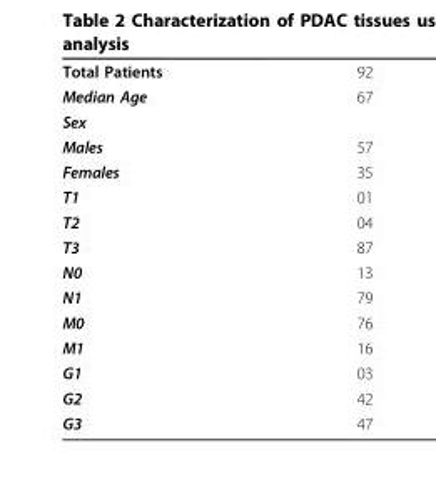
<table><tbody><tr><td>Total Patients</td><td>92</td></tr><tr><td>Median Age</td><td>67</td></tr><tr><td colspan="2">Sex</td></tr><tr><td>Males</td><td>57</td></tr><tr><td>Females</td><td>35</td></tr><tr><td>T1</td><td>01</td></tr><tr><td>T2</td><td>04</td></tr><tr><td>T3</td><td>87</td></tr><tr><td>N0</td><td>13</td></tr><tr><td>N1</td><td>79</td></tr><tr><td>M0</td><td>76</td></tr><tr><td>M1</td><td>16</td></tr><tr><td>G1</td><td>03</td></tr><tr><td>G2</td><td>42</td></tr><tr><td>G3</td><td>47</td></tr></tbody></table>